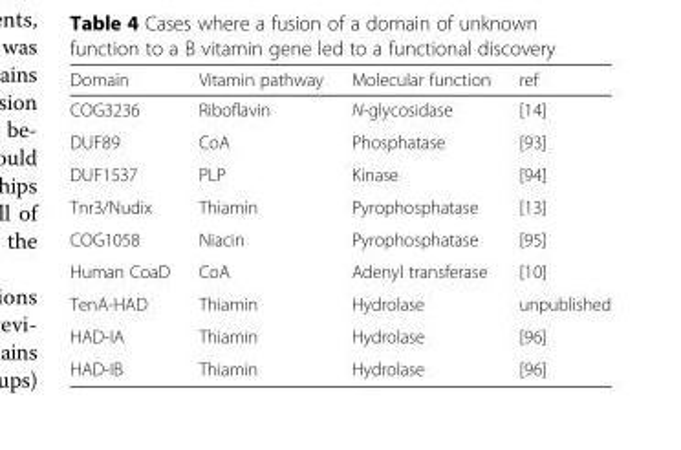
<table><thead><tr><td>Domain</td><td>Vitamin pathway</td><td>Molecular function</td><td>ref</td></tr></thead><tbody><tr><td>COG3236</td><td>Riboflavin</td><td>N-glycosidase</td><td>[14]</td></tr><tr><td>DUF89</td><td>CoA</td><td>Phosphatase</td><td>[93]</td></tr><tr><td>DUF1537</td><td>PLP</td><td>Kinase</td><td>[94]</td></tr><tr><td>Tnr3/Nudix</td><td>Thiamin</td><td>Pyrophosphatase</td><td>[13]</td></tr><tr><td>COG1058</td><td>Niacin</td><td>Pyrophosphatase</td><td>[95]</td></tr><tr><td>Human CoaD</td><td>CoA</td><td>Adenyl transferase</td><td>[10]</td></tr><tr><td>TenA-HAD</td><td>Thiamin</td><td>Hydrolase</td><td>unpublished</td></tr><tr><td>HAD-IA</td><td>Thiamin</td><td>Hydrolase</td><td>[96]</td></tr><tr><td>HAD-IB</td><td>Thiamin</td><td>Hydrolase</td><td>[96]</td></tr></tbody></table>